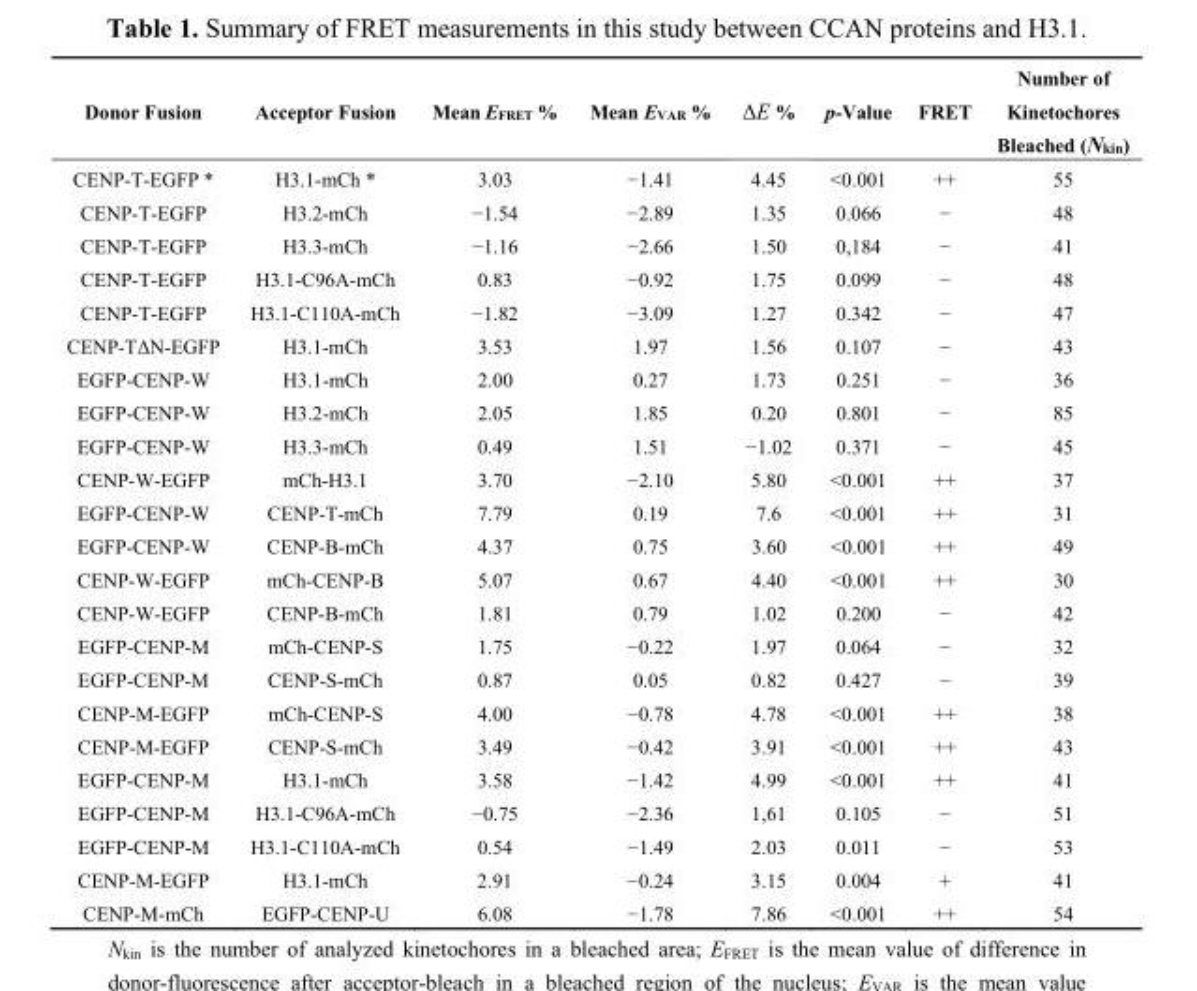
<table><thead><tr><td>Donor Fusion</td><td>Acceptor Fusion</td><td>Mean E<sub>FRET</sub> %</td><td>Mean E<sub>VAR</sub> %</td><td>ΔE %</td><td>p-Value</td><td>FRET</td><td>Number of Kinetochores Bleached (N<sub>kin</sub>)</td></tr></thead><tbody><tr><td>CENP-T-EGFP *</td><td>H3.1-mCh *</td><td>3.03</td><td>−1.41</td><td>4.45</td><td>&lt;0.001</td><td>++</td><td>55</td></tr><tr><td>CENP-T-EGFP</td><td>H3.2-mCh</td><td>−1.54</td><td>−2.89</td><td>1.35</td><td>0.066</td><td>−</td><td>48</td></tr><tr><td>CENP-T-EGFP</td><td>H3.3-mCh</td><td>−1.16</td><td>−2.66</td><td>1.50</td><td>0,184</td><td>−</td><td>41</td></tr><tr><td>CENP-T-EGFP</td><td>H3.1-C96A-mCh</td><td>0.83</td><td>−0.92</td><td>1.75</td><td>0.099</td><td>−</td><td>48</td></tr><tr><td>CENP-T-EGFP</td><td>H3.1-C110A-mCh</td><td>−1.82</td><td>−3.09</td><td>1.27</td><td>0.342</td><td>−</td><td>47</td></tr><tr><td>CENP-TΔN-EGFP</td><td>H3.1-mCh</td><td>3.53</td><td>1.97</td><td>1.56</td><td>0.107</td><td>−</td><td>43</td></tr><tr><td>EGFP-CENP-W</td><td>H3.1-mCh</td><td>2.00</td><td>0.27</td><td>1.73</td><td>0.251</td><td>−</td><td>36</td></tr><tr><td>EGFP-CENP-W</td><td>H3.2-mCh</td><td>2.05</td><td>1.85</td><td>0.20</td><td>0.801</td><td>−</td><td>85</td></tr><tr><td>EGFP-CENP-W</td><td>H3.3-mCh</td><td>0.49</td><td>1.51</td><td>−1.02</td><td>0.371</td><td>−</td><td>45</td></tr><tr><td>CENP-W-EGFP</td><td>mCh-H3.1</td><td>3.70</td><td>−2.10</td><td>5.80</td><td>&lt;0.001</td><td>++</td><td>37</td></tr><tr><td>EGFP-CENP-W</td><td>CENP-T-mCh</td><td>7.79</td><td>0.19</td><td>7.6</td><td>&lt;0.001</td><td>++</td><td>31</td></tr><tr><td>EGFP-CENP-W</td><td>CENP-B-mCh</td><td>4.37</td><td>0.75</td><td>3.60</td><td>&lt;0.001</td><td>++</td><td>49</td></tr><tr><td>CENP-W-EGFP</td><td>mCh-CENP-B</td><td>5.07</td><td>0.67</td><td>4.40</td><td>&lt;0.001</td><td>++</td><td>30</td></tr><tr><td>CENP-W-EGFP</td><td>CENP-B-mCh</td><td>1.81</td><td>0.79</td><td>1.02</td><td>0.200</td><td>−</td><td>42</td></tr><tr><td>EGFP-CENP-M</td><td>mCh-CENP-S</td><td>1.75</td><td>−0.22</td><td>1.97</td><td>0.064</td><td>−</td><td>32</td></tr><tr><td>EGFP-CENP-M</td><td>CENP-S-mCh</td><td>0.87</td><td>0.05</td><td>0.82</td><td>0.427</td><td>−</td><td>39</td></tr><tr><td>CENP-M-EGFP</td><td>mCh-CENP-S</td><td>4.00</td><td>−0.78</td><td>4.78</td><td>&lt;0.001</td><td>++</td><td>38</td></tr><tr><td>CENP-M-EGFP</td><td>CENP-S-mCh</td><td>3.49</td><td>−0.42</td><td>3.91</td><td>&lt;0.001</td><td>++</td><td>43</td></tr><tr><td>EGFP-CENP-M</td><td>H3.1-mCh</td><td>3.58</td><td>−1.42</td><td>4.99</td><td>&lt;0.001</td><td>++</td><td>41</td></tr><tr><td>EGFP-CENP-M</td><td>H3.1-C96A-mCh</td><td>−0.75</td><td>−2.36</td><td>1,61</td><td>0.105</td><td>−</td><td>51</td></tr><tr><td>EGFP-CENP-M</td><td>H3.1-C110A-mCh</td><td>0.54</td><td>−1.49</td><td>2.03</td><td>0.011</td><td>−</td><td>53</td></tr><tr><td>CENP-M-EGFP</td><td>H3.1-mCh</td><td>2.91</td><td>−0.24</td><td>3.15</td><td>0.004</td><td>+</td><td>41</td></tr><tr><td>CENP-M-mCh</td><td>EGFP-CENP-U</td><td>6.08</td><td>−1.78</td><td>7.86</td><td>&lt;0.001</td><td>++</td><td>54</td></tr></tbody></table>